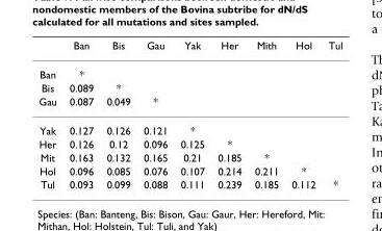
<table><thead><tr><td></td><td>Ban</td><td>Bis</td><td>Gau</td><td>Yak</td><td>Her</td><td>Mith</td><td>Hol</td><td>Tul</td></tr></thead><tbody><tr><td>Ban</td><td>*</td><td></td><td></td><td></td><td></td><td></td><td></td><td></td></tr><tr><td>Bis</td><td>0.089</td><td>*</td><td></td><td></td><td></td><td></td><td></td><td></td></tr><tr><td>Gau</td><td>0.087</td><td>0.049</td><td>*</td><td></td><td></td><td></td><td></td><td></td></tr><tr><td>Yak</td><td>0.127</td><td>0.126</td><td>0.121</td><td>*</td><td></td><td></td><td></td><td></td></tr><tr><td>Her</td><td>0.126</td><td>0.12</td><td>0.096</td><td>0.125</td><td>*</td><td></td><td></td><td></td></tr><tr><td>Mit</td><td>0.163</td><td>0.132</td><td>0.165</td><td>0.21</td><td>0.185</td><td>*</td><td></td><td></td></tr><tr><td>Hol</td><td>0.096</td><td>0.085</td><td>0.076</td><td>0.107</td><td>0.214</td><td>0.211</td><td>*</td><td></td></tr><tr><td>Tul</td><td>0.093</td><td>0.099</td><td>0.088</td><td>0.111</td><td>0.239</td><td>0.185</td><td>0.112</td><td>*</td></tr></tbody></table>